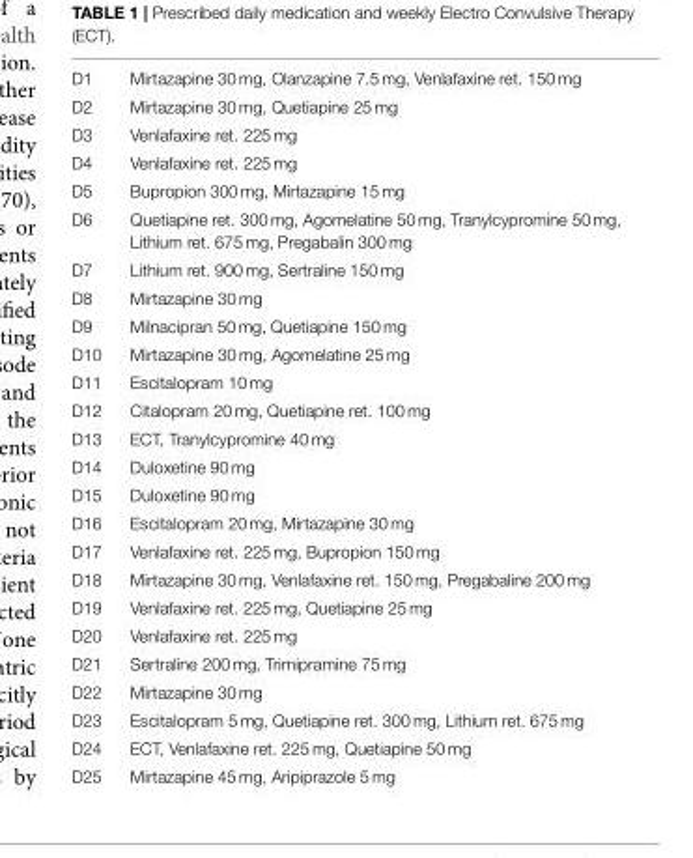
<table><tbody><tr><td>D1</td><td>Mirtazapine 30 mg, Olanzapine 7.5 mg, Venlafaxine ret. 150 mg</td></tr><tr><td>D2</td><td>Mirtazapine 30 mg, Quetiapine 25 mg</td></tr><tr><td>D3</td><td>Venlafaxine ret. 225 mg</td></tr><tr><td>D4</td><td>Venlafaxine ret. 225 mg</td></tr><tr><td>D5</td><td>Bupropion 300 mg, Mirtazapine 15 mg</td></tr><tr><td>D6</td><td>Quetiapine ret. 300 mg, Agomelatine 50 mg, Tranylcypromine 50 mg, Lithium ret. 675 mg, Pregabalin 300 mg</td></tr><tr><td>D7</td><td>Lithium ret. 900 mg, Sertraline 150 mg</td></tr><tr><td>D8</td><td>Mirtazapine 30 mg</td></tr><tr><td>D9</td><td>Milnacipran 50 mg, Quetiapine 150 mg</td></tr><tr><td>D10</td><td>Mirtazapine 30 mg, Agomelatine 25 mg</td></tr><tr><td>D11</td><td>Escitalopram 10 mg</td></tr><tr><td>D12</td><td>Citalopram 20 mg, Quetiapine ret. 100 mg</td></tr><tr><td>D13</td><td>ECT, Tranylcypromine 40 mg</td></tr><tr><td>D14</td><td>Duloxetine 90 mg</td></tr><tr><td>D15</td><td>Duloxetine 90 mg</td></tr><tr><td>D16</td><td>Escitalopram 20 mg, Mirtazapine 30 mg</td></tr><tr><td>D17</td><td>Venlafaxine ret. 225 mg, Bupropion 150 mg</td></tr><tr><td>D18</td><td>Mirtazapine 30 mg, Venlafaxine ret. 150 mg, Pregabaline 200 mg</td></tr><tr><td>D19</td><td>Venlafaxine ret. 225 mg, Quetiapine 25 mg</td></tr><tr><td>D20</td><td>Venlafaxine ret. 225 mg</td></tr><tr><td>D21</td><td>Sertraline 200 mg, Trimipramine 75 mg</td></tr><tr><td>D22</td><td>Mirtazapine 30 mg</td></tr><tr><td>D23</td><td>Escitalopram 5 mg, Quetiapine ret. 300 mg, Lithium ret. 675 mg</td></tr><tr><td>D24</td><td>ECT, Venlafaxine ret. 225 mg, Quetiapine 50 mg</td></tr><tr><td>D25</td><td>Mirtazapine 45 mg, Aripiprazole 5 mg</td></tr></tbody></table>